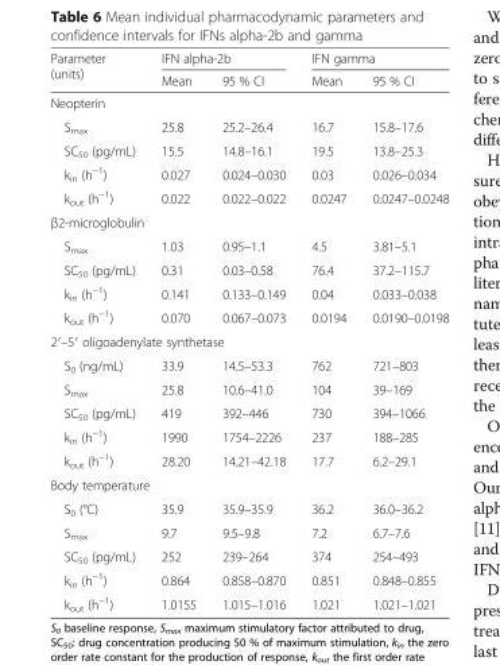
<table><thead><tr><td rowspan="2">Parameter (units)</td><td colspan="2">IFN alpha-2b</td><td colspan="2">IFN gamma</td></tr><tr><td>Mean</td><td>95 % CI</td><td>Mean</td><td>95 % CI</td></tr></thead><tbody><tr><td colspan="5">Neopterin</td></tr><tr><td>S<sub>max</sub></td><td>25.8</td><td>25.2–26.4</td><td>16.7</td><td>15.8–17.6</td></tr><tr><td>SC<sub>50</sub> (pg/mL)</td><td>15.5</td><td>14.8–16.1</td><td>19.5</td><td>13.8–25.3</td></tr><tr><td>k<sub>in</sub> (h<sup>−1</sup>)</td><td>0.027</td><td>0.024–0.030</td><td>0.03</td><td>0.026–0.034</td></tr><tr><td>k<sub>out</sub> (h<sup>−1</sup>)</td><td>0.022</td><td>0.022–0.022</td><td>0.0247</td><td>0.0247–0.0248</td></tr><tr><td colspan="5">β2-microglobulin</td></tr><tr><td>S<sub>max</sub></td><td>1.03</td><td>0.95–1.1</td><td>4.5</td><td>3.81–5.1</td></tr><tr><td>SC<sub>50</sub> (pg/mL)</td><td>0.31</td><td>0.03–0.58</td><td>76.4</td><td>37.2–115.7</td></tr><tr><td>k<sub>in</sub> (h<sup>−1</sup>)</td><td>0.141</td><td>0.133–0.149</td><td>0.04</td><td>0.033–0.038</td></tr><tr><td>k<sub>out</sub> (h<sup>−1</sup>)</td><td>0.070</td><td>0.067–0.073</td><td>0.0194</td><td>0.0190–0.0198</td></tr><tr><td colspan="5">2′–5′ oligoadenylate synthetase</td></tr><tr><td>S<sub>0</sub> (ng/mL)</td><td>33.9</td><td>14.5–53.3</td><td>762</td><td>721–803</td></tr><tr><td>S<sub>max</sub></td><td>25.8</td><td>10.6–41.0</td><td>104</td><td>39–169</td></tr><tr><td>SC<sub>50</sub> (pg/mL)</td><td>419</td><td>392–446</td><td>730</td><td>394–1066</td></tr><tr><td>k<sub>in</sub> (h<sup>−1</sup>)</td><td>1990</td><td>1754–2226</td><td>237</td><td>188–285</td></tr><tr><td>k<sub>out</sub> (h<sup>−1</sup>)</td><td>28.20</td><td>14.21–42.18</td><td>17.7</td><td>6.2–29.1</td></tr><tr><td colspan="5">Body temperature</td></tr><tr><td>S<sub>0</sub> (°C)</td><td>35.9</td><td>35.9–35.9</td><td>36.2</td><td>36.0–36.2</td></tr><tr><td>S<sub>max</sub></td><td>9.7</td><td>9.5–9.8</td><td>7.2</td><td>6.7–7.6</td></tr><tr><td>SC<sub>50</sub> (pg/mL)</td><td>252</td><td>239–264</td><td>374</td><td>254–493</td></tr><tr><td>k<sub>in</sub> (h<sup>−1</sup>)</td><td>0.864</td><td>0.858–0.870</td><td>0.851</td><td>0.848–0.855</td></tr><tr><td>k<sub>out</sub> (h<sup>−1</sup>)</td><td>1.0155</td><td>1.015–1.016</td><td>1.021</td><td>1.021–1.021</td></tr></tbody></table>